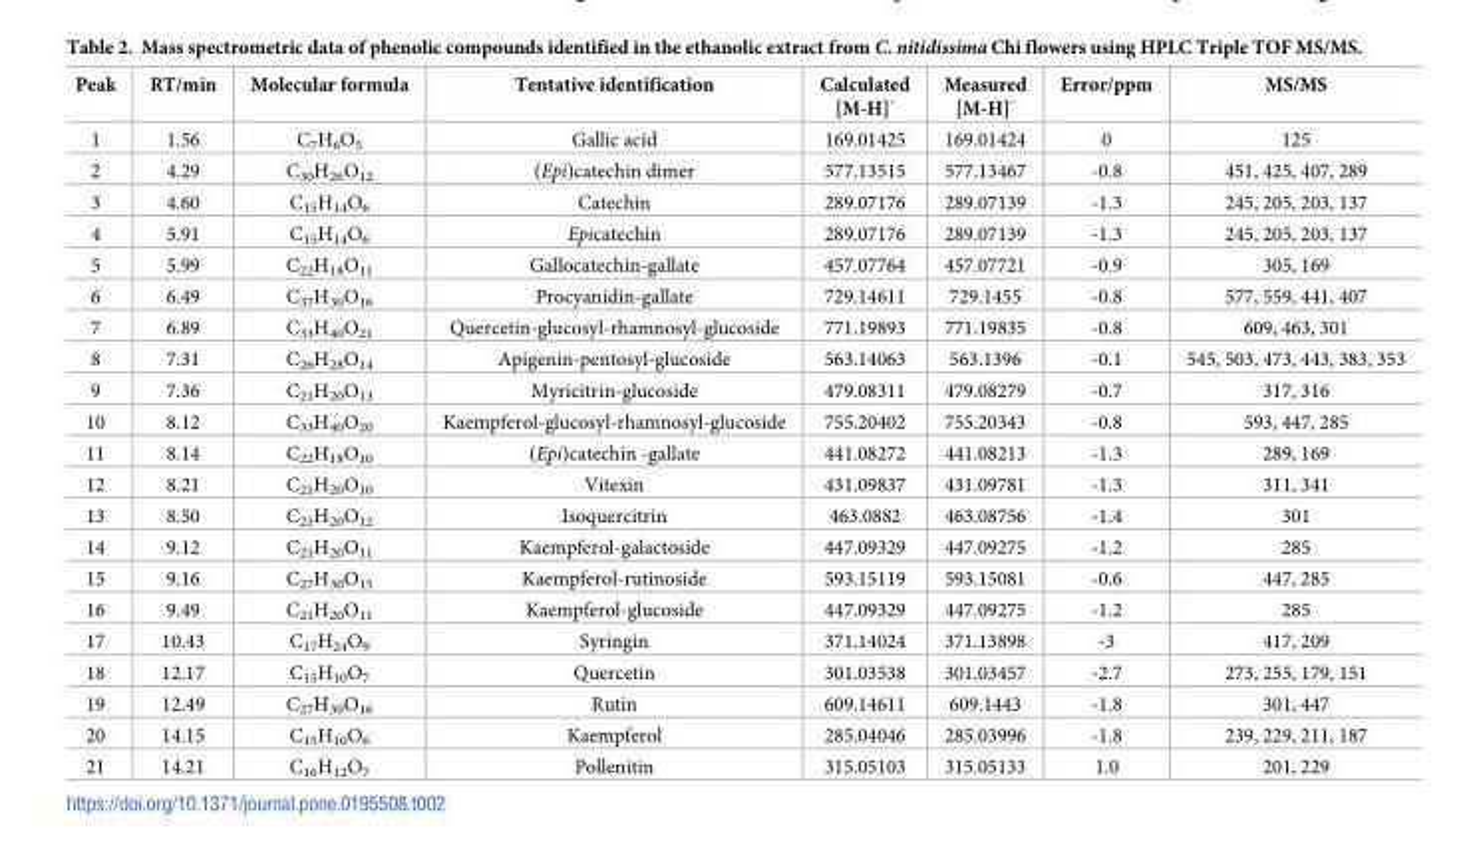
<table><thead><tr><td>Peak</td><td>RT/min</td><td>Molecular formula</td><td>Tentative identification</td><td>Calculated [M-H]<sup>-</sup></td><td>Measured [M-H]<sup>-</sup></td><td>Error/ppm</td><td>MS/MS</td></tr></thead><tbody><tr><td>1</td><td>1.56</td><td>C<sub>7</sub>H<sub>6</sub>O<sub>5</sub></td><td>Gallic acid</td><td>169.01425</td><td>169.01424</td><td>0</td><td>125</td></tr><tr><td>2</td><td>4.29</td><td>C<sub>30</sub>H<sub>26</sub>O<sub>12</sub></td><td>(Epi)catechin dimer</td><td>577.13515</td><td>577.13467</td><td>-0.8</td><td>451, 425, 407, 289</td></tr><tr><td>3</td><td>4.60</td><td>C<sub>15</sub>H<sub>14</sub>O<sub>6</sub></td><td>Catechin</td><td>289.07176</td><td>289.07139</td><td>-1.3</td><td>245, 205, 203, 137</td></tr><tr><td>4</td><td>5.91</td><td>C<sub>15</sub>H<sub>14</sub>O<sub>6</sub></td><td>Epicatechin</td><td>289.07176</td><td>289.07139</td><td>-1.3</td><td>245, 205, 203, 137</td></tr><tr><td>5</td><td>5.99</td><td>C<sub>22</sub>H<sub>18</sub>O<sub>11</sub></td><td>Gallocatechin-gallate</td><td>457.07764</td><td>457.07721</td><td>-0.9</td><td>305, 169</td></tr><tr><td>6</td><td>6.49</td><td>C<sub>37</sub>H<sub>30</sub>O<sub>16</sub></td><td>Procyanidin-gallate</td><td>729.14611</td><td>729.1455</td><td>-0.8</td><td>577, 559, 441, 407</td></tr><tr><td>7</td><td>6.89</td><td>C<sub>33</sub>H<sub>40</sub>O<sub>21</sub></td><td>Quercetin-glucosyl-rhamnosyl-glucoside</td><td>771.19893</td><td>771.19835</td><td>-0.8</td><td>609, 463, 301</td></tr><tr><td>8</td><td>7.31</td><td>C<sub>26</sub>H<sub>28</sub>O<sub>14</sub></td><td>Apigenin-pentosyl-glucoside</td><td>563.14063</td><td>563.1396</td><td>-0.1</td><td>545, 503, 473, 443, 383, 353</td></tr><tr><td>9</td><td>7.36</td><td>C<sub>21</sub>H<sub>20</sub>O<sub>13</sub></td><td>Myricitrin-glucoside</td><td>479.08311</td><td>479.08279</td><td>-0.7</td><td>317, 316</td></tr><tr><td>10</td><td>8.12</td><td>C<sub>33</sub>H<sub>40</sub>O<sub>20</sub></td><td>Kaempferol-glucosyl-rhamnosyl-glucoside</td><td>755.20402</td><td>755.20343</td><td>-0.8</td><td>593, 447, 285</td></tr><tr><td>11</td><td>8.14</td><td>C<sub>22</sub>H<sub>18</sub>O<sub>10</sub></td><td>(Epi)catechin -gallate</td><td>441.08272</td><td>441.08213</td><td>-1.3</td><td>289, 169</td></tr><tr><td>12</td><td>8.21</td><td>C<sub>21</sub>H<sub>20</sub>O<sub>10</sub></td><td>Vitexin</td><td>431.09837</td><td>431.09781</td><td>-1.3</td><td>311, 341</td></tr><tr><td>13</td><td>8.50</td><td>C<sub>21</sub>H<sub>20</sub>O<sub>12</sub></td><td>Isoquercitrin</td><td>463.0882</td><td>463.08756</td><td>-1.4</td><td>301</td></tr><tr><td>14</td><td>9.12</td><td>C<sub>21</sub>H<sub>20</sub>O<sub>11</sub></td><td>Kaempferol-galactoside</td><td>447.09329</td><td>447.09275</td><td>-1.2</td><td>285</td></tr><tr><td>15</td><td>9.16</td><td>C<sub>27</sub>H<sub>30</sub>O<sub>15</sub></td><td>Kaempferol-rutinoside</td><td>593.15119</td><td>593.15081</td><td>-0.6</td><td>447, 285</td></tr><tr><td>16</td><td>9.49</td><td>C<sub>21</sub>H<sub>20</sub>O<sub>11</sub></td><td>Kaempferol-glucoside</td><td>447.09329</td><td>447.09275</td><td>-1.2</td><td>285</td></tr><tr><td>17</td><td>10.43</td><td>C<sub>17</sub>H<sub>24</sub>O<sub>9</sub></td><td>Syringin</td><td>371.14024</td><td>371.13898</td><td>-3</td><td>417, 209</td></tr><tr><td>18</td><td>12.17</td><td>C<sub>15</sub>H<sub>10</sub>O<sub>7</sub></td><td>Quercetin</td><td>301.03538</td><td>301.03457</td><td>-2.7</td><td>273, 255, 179, 151</td></tr><tr><td>19</td><td>12.49</td><td>C<sub>27</sub>H<sub>30</sub>O<sub>16</sub></td><td>Rutin</td><td>609.14611</td><td>609.1443</td><td>-1.8</td><td>301, 447</td></tr><tr><td>20</td><td>14.15</td><td>C<sub>15</sub>H<sub>10</sub>O<sub>6</sub></td><td>Kaempferol</td><td>285.04046</td><td>285.03996</td><td>-1.8</td><td>239, 229, 211, 187</td></tr><tr><td>21</td><td>14.21</td><td>C<sub>16</sub>H<sub>12</sub>O<sub>7</sub></td><td>Pollenitin</td><td>315.05103</td><td>315.05133</td><td>1.0</td><td>201, 229</td></tr></tbody></table>